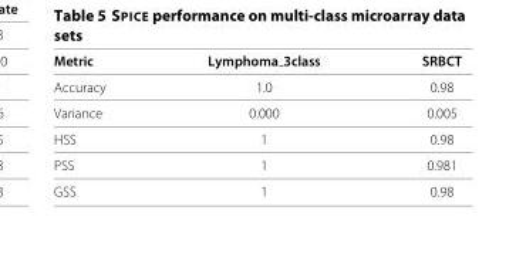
<table><thead><tr><td>Metric</td><td>Lymphoma 3class</td><td>SRBCT</td></tr></thead><tbody><tr><td>Accuracy</td><td>1.0</td><td>0.98</td></tr><tr><td>Variance</td><td>0.000</td><td>0.005</td></tr><tr><td>HSS</td><td>1</td><td>0.98</td></tr><tr><td>PSS</td><td>1</td><td>0.981</td></tr><tr><td>GSS</td><td>1</td><td>0.98</td></tr></tbody></table>